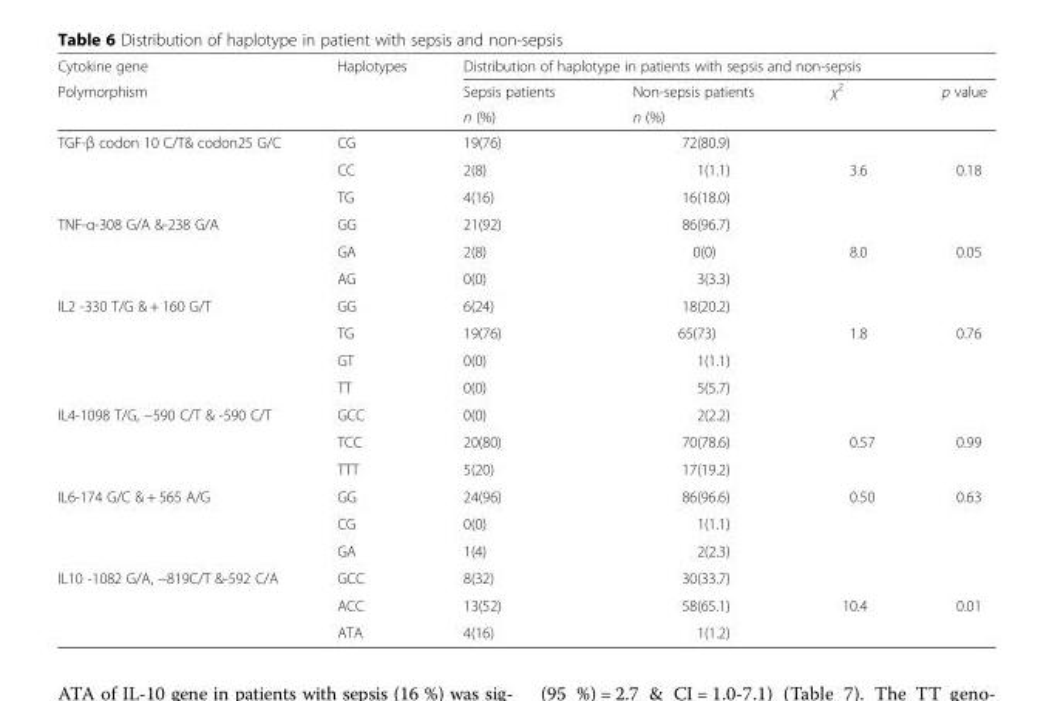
<table><thead><tr><td rowspan="3">Cytokine gene Polymorphism</td><td rowspan="3">Haplotypes</td><td colspan="4">Distribution of haplotype in patients with sepsis and non-sepsis</td></tr><tr><td rowspan="2">Sepsis patients n (%)</td><td rowspan="2">Non-sepsis patients n (%)</td><td rowspan="2">χ<sup>2</sup></td><td rowspan="2">p value</td></tr><tr></tr></thead><tbody><tr><td rowspan="3">TGF-β codon 10 C/T&amp; codon25 G/C</td><td>CG</td><td>19(76)</td><td>72(80.9)</td><td></td><td></td></tr><tr><td>CC</td><td>2(8)</td><td>1(1.1)</td><td>3.6</td><td>0.18</td></tr><tr><td>TG</td><td>4(16)</td><td>16(18.0)</td><td></td><td></td></tr><tr><td rowspan="3">TNF-α-308 G/A &amp;-238 G/A</td><td>GG</td><td>21(92)</td><td>86(96.7)</td><td></td><td></td></tr><tr><td>GA</td><td>2(8)</td><td>0(0)</td><td>8.0</td><td>0.05</td></tr><tr><td>AG</td><td>0(0)</td><td>3(3.3)</td><td></td><td></td></tr><tr><td rowspan="4">IL2 -330 T/G &amp; + 160 G/T</td><td>GG</td><td>6(24)</td><td>18(20.2)</td><td></td><td></td></tr><tr><td>TG</td><td>19(76)</td><td>65(73)</td><td>1.8</td><td>0.76</td></tr><tr><td>GT</td><td>0(0)</td><td>1(1.1)</td><td></td><td></td></tr><tr><td>TT</td><td>0(0)</td><td>5(5.7)</td><td></td><td></td></tr><tr><td rowspan="3">IL4-1098 T/G, −590 C/T &amp; -590 C/T</td><td>GCC</td><td>0(0)</td><td>2(2.2)</td><td></td><td></td></tr><tr><td>TCC</td><td>20(80)</td><td>70(78.6)</td><td>0.57</td><td>0.99</td></tr><tr><td>TTT</td><td>5(20)</td><td>17(19.2)</td><td></td><td></td></tr><tr><td rowspan="3">IL6-174 G/C &amp; + 565 A/G</td><td>GG</td><td>24(96)</td><td>86(96.6)</td><td>0.50</td><td>0.63</td></tr><tr><td>CG</td><td>0(0)</td><td>1(1.1)</td><td></td><td></td></tr><tr><td>GA</td><td>1(4)</td><td>2(2.3)</td><td></td><td></td></tr><tr><td rowspan="3">IL10 -1082 G/A, −819C/T &amp;-592 C/A</td><td>GCC</td><td>8(32)</td><td>30(33.7)</td><td></td><td></td></tr><tr><td>ACC</td><td>13(52)</td><td>58(65.1)</td><td>10.4</td><td>0.01</td></tr><tr><td>ATA</td><td>4(16)</td><td>1(1.2)</td><td></td><td></td></tr></tbody></table>